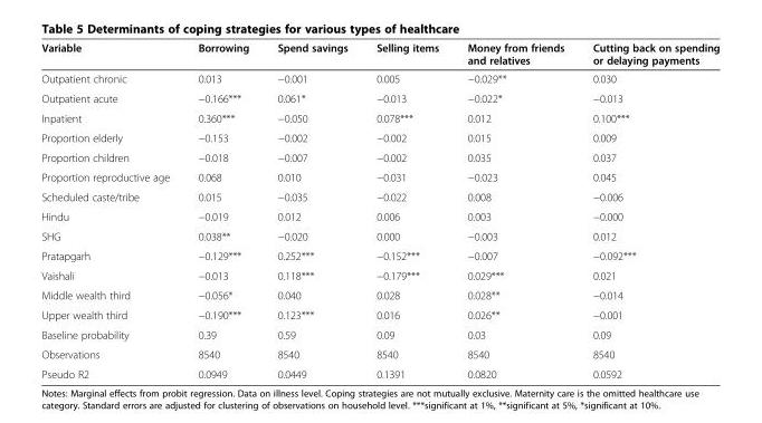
<table><thead><tr><td>Variable</td><td>Borrowing</td><td>Spend savings</td><td>Selling items</td><td>Money from friends and relatives</td><td>Cutting back on spending or delaying payments</td></tr></thead><tbody><tr><td>Outpatient chronic</td><td>0.013</td><td>−0.001</td><td>0.005</td><td>−0.029**</td><td>0.030</td></tr><tr><td>Outpatient acute</td><td>−0.166***</td><td>0.061*</td><td>−0.013</td><td>−0.022*</td><td>−0.013</td></tr><tr><td>Inpatient</td><td>0.360***</td><td>−0.050</td><td>0.078***</td><td>0.012</td><td>0.100***</td></tr><tr><td>Proportion elderly</td><td>−0.153</td><td>−0.002</td><td>−0.002</td><td>0.015</td><td>0.009</td></tr><tr><td>Proportion children</td><td>−0.018</td><td>−0.007</td><td>−0.002</td><td>0.035</td><td>0.037</td></tr><tr><td>Proportion reproductive age</td><td>0.068</td><td>0.010</td><td>−0.031</td><td>−0.023</td><td>0.045</td></tr><tr><td>Scheduled caste/tribe</td><td>0.015</td><td>−0.035</td><td>−0.022</td><td>0.008</td><td>−0.006</td></tr><tr><td>Hindu</td><td>−0.019</td><td>0.012</td><td>0.006</td><td>0.003</td><td>−0.000</td></tr><tr><td>SHG</td><td>0.038**</td><td>−0.020</td><td>0.000</td><td>−0.003</td><td>0.012</td></tr><tr><td>Pratapgarh</td><td>−0.129***</td><td>0.252***</td><td>−0.152***</td><td>−0.007</td><td>−0.092***</td></tr><tr><td>Vaishali</td><td>−0.013</td><td>0.118***</td><td>−0.179***</td><td>0.029***</td><td>0.021</td></tr><tr><td>Middle wealth third</td><td>−0.056*</td><td>0.040</td><td>0.028</td><td>0.028**</td><td>−0.014</td></tr><tr><td>Upper wealth third</td><td>−0.190***</td><td>0.123***</td><td>0.016</td><td>0.026**</td><td>−0.001</td></tr><tr><td>Baseline probability</td><td>0.39</td><td>0.59</td><td>0.09</td><td>0.03</td><td>0.09</td></tr><tr><td>Observations</td><td>8540</td><td>8540</td><td>8540</td><td>8540</td><td>8540</td></tr><tr><td>Pseudo R2</td><td>0.0949</td><td>0.0449</td><td>0.1391</td><td>0.0820</td><td>0.0592</td></tr></tbody></table>